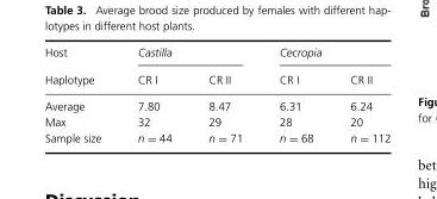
<table><thead><tr><td rowspan="2">Host Haplotype</td><td colspan="2">Castilla</td><td colspan="2">Cecropia</td></tr><tr><td>CR I</td><td>CR II</td><td>CR I</td><td>CR II</td></tr></thead><tbody><tr><td>Average</td><td>7.80</td><td>8.47</td><td>6.31</td><td>6.24</td></tr><tr><td>Max</td><td>32</td><td>29</td><td>28</td><td>20</td></tr><tr><td>Sample size</td><td>n = 44</td><td>n = 71</td><td>n = 68</td><td>n = 112</td></tr></tbody></table>